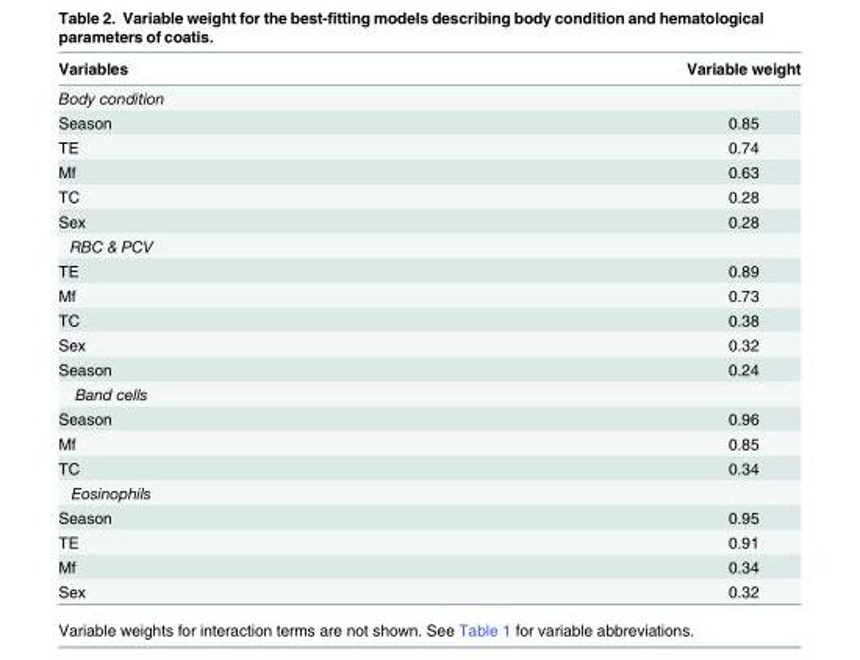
<table><thead><tr><td>Variables</td><td>Variable weight</td></tr></thead><tbody><tr><td colspan="2">Body condition</td></tr><tr><td>Season</td><td>0.85</td></tr><tr><td>TE</td><td>0.74</td></tr><tr><td>Mf</td><td>0.63</td></tr><tr><td>TC</td><td>0.28</td></tr><tr><td>Sex</td><td>0.28</td></tr><tr><td colspan="2">RBC &amp; PCV</td></tr><tr><td>TE</td><td>0.89</td></tr><tr><td>Mf</td><td>0.73</td></tr><tr><td>TC</td><td>0.38</td></tr><tr><td>Sex</td><td>0.32</td></tr><tr><td>Season</td><td>0.24</td></tr><tr><td colspan="2">Band cells</td></tr><tr><td>Season</td><td>0.96</td></tr><tr><td>Mf</td><td>0.85</td></tr><tr><td>TC</td><td>0.34</td></tr><tr><td colspan="2">Eosinophils</td></tr><tr><td>Season</td><td>0.95</td></tr><tr><td>TE</td><td>0.91</td></tr><tr><td>Mf</td><td>0.34</td></tr><tr><td>Sex</td><td>0.32</td></tr></tbody></table>